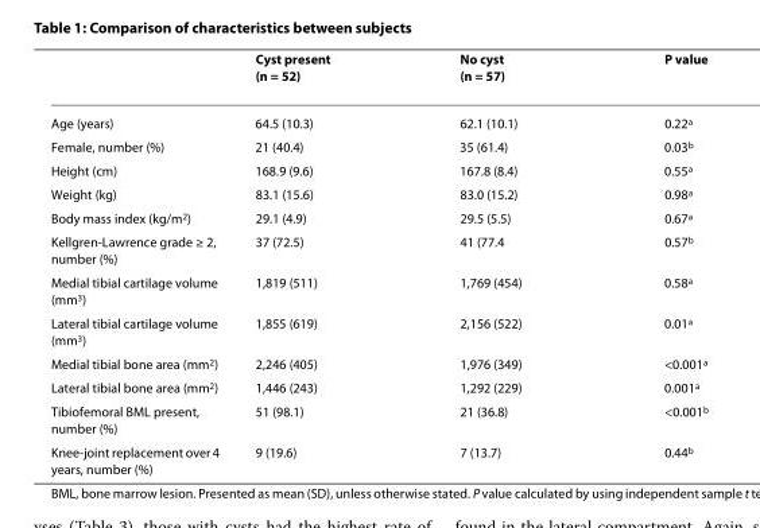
<table><thead><tr><td></td><td>Cyst present (n = 52)</td><td>No cyst (n = 57)</td><td>P value</td></tr></thead><tbody><tr><td>Age (years)</td><td>64.5 (10.3)</td><td>62.1 (10.1)</td><td>0.22<sup>a</sup></td></tr><tr><td>Female, number (%)</td><td>21 (40.4)</td><td>35 (61.4)</td><td>0.03<sup>b</sup></td></tr><tr><td>Height (cm)</td><td>168.9 (9.6)</td><td>167.8 (8.4)</td><td>0.55<sup>a</sup></td></tr><tr><td>Weight (kg)</td><td>83.1 (15.6)</td><td>83.0 (15.2)</td><td>0.98<sup>a</sup></td></tr><tr><td>Body mass index (kg/m<sup>2</sup>)</td><td>29.1 (4.9)</td><td>29.5 (5.5)</td><td>0.67<sup>a</sup></td></tr><tr><td>Kellgren-Lawrence grade ≥ 2, number (%)</td><td>37 (72.5)</td><td>41 (77.4</td><td>0.57<sup>b</sup></td></tr><tr><td>Medial tibial cartilage volume (mm<sup>3</sup>)</td><td>1,819 (511)</td><td>1,769 (454)</td><td>0.58<sup>a</sup></td></tr><tr><td>Lateral tibial cartilage volume (mm<sup>3</sup>)</td><td>1,855 (619)</td><td>2,156 (522)</td><td>0.01<sup>a</sup></td></tr><tr><td>Medial tibial bone area (mm<sup>2</sup>)</td><td>2,246 (405)</td><td>1,976 (349)</td><td>&lt;0.001<sup>a</sup></td></tr><tr><td>Lateral tibial bone area (mm<sup>2</sup>)</td><td>1,446 (243)</td><td>1,292 (229)</td><td>0.001<sup>a</sup></td></tr><tr><td>Tibiofemoral BML present, number (%)</td><td>51 (98.1)</td><td>21 (36.8)</td><td>&lt;0.001<sup>b</sup></td></tr><tr><td>Knee-joint replacement over 4 years, number (%)</td><td>9 (19.6)</td><td>7 (13.7)</td><td>0.44<sup>b</sup></td></tr></tbody></table>